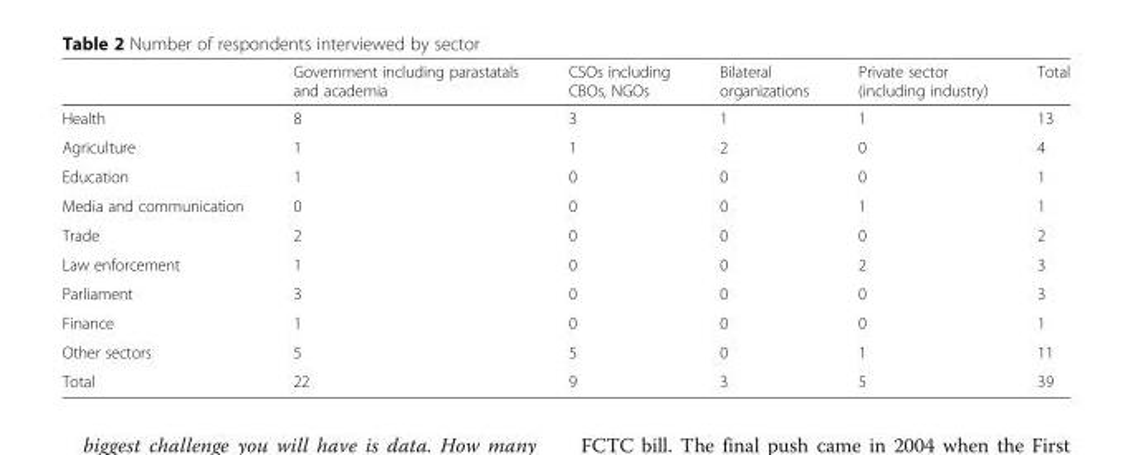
<table><thead><tr><td></td><td>Government including parastatals and academia</td><td>CSOs including CBOs, NGOs</td><td>Bilateral organizations</td><td>Private sector (including industry)</td><td>Total</td></tr></thead><tbody><tr><td>Health</td><td>8</td><td>3</td><td>1</td><td>1</td><td>13</td></tr><tr><td>Agriculture</td><td>1</td><td>1</td><td>2</td><td>0</td><td>4</td></tr><tr><td>Education</td><td>1</td><td>0</td><td>0</td><td>0</td><td>1</td></tr><tr><td>Media and communication</td><td>0</td><td>0</td><td>0</td><td>1</td><td>1</td></tr><tr><td>Trade</td><td>2</td><td>0</td><td>0</td><td>0</td><td>2</td></tr><tr><td>Law enforcement</td><td>1</td><td>0</td><td>0</td><td>2</td><td>3</td></tr><tr><td>Parliament</td><td>3</td><td>0</td><td>0</td><td>0</td><td>3</td></tr><tr><td>Finance</td><td>1</td><td>0</td><td>0</td><td>0</td><td>1</td></tr><tr><td>Other sectors</td><td>5</td><td>5</td><td>0</td><td>1</td><td>11</td></tr><tr><td>Total</td><td>22</td><td>9</td><td>3</td><td>5</td><td>39</td></tr></tbody></table>